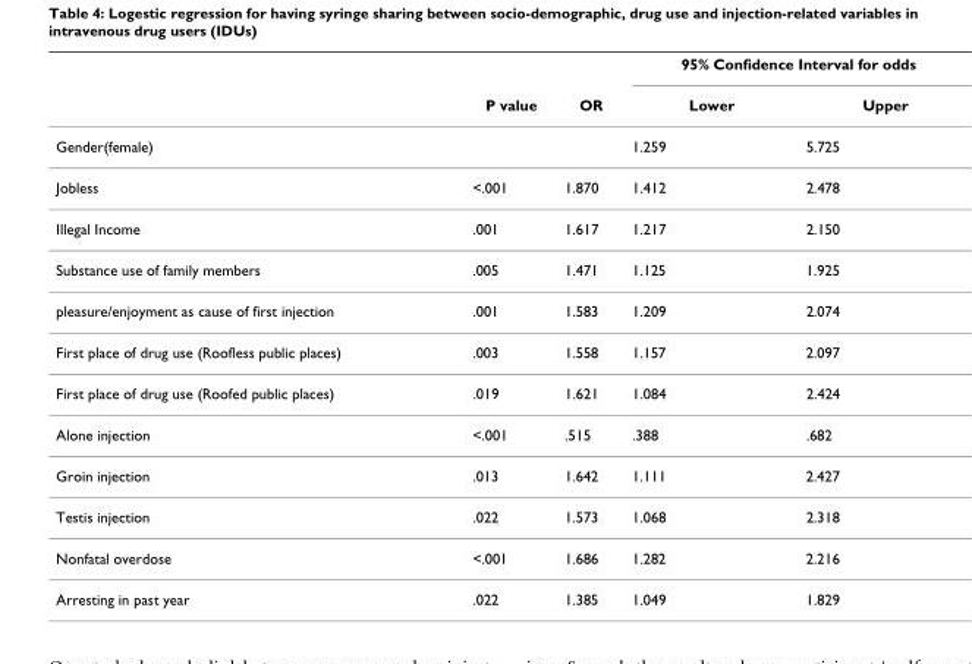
<table><thead><tr><td rowspan="2"></td><td rowspan="2">P value</td><td rowspan="2">OR</td><td colspan="2">95% Confidence Interval for odds</td></tr><tr><td>Lower</td><td>Upper</td></tr></thead><tbody><tr><td>Gender(female)</td><td></td><td></td><td>1.259</td><td>5.725</td></tr><tr><td>Jobless</td><td>&lt;.001</td><td>1.870</td><td>1.412</td><td>2.478</td></tr><tr><td>Illegal Income</td><td>.001</td><td>1.617</td><td>1.217</td><td>2.150</td></tr><tr><td>Substance use of family members</td><td>.005</td><td>1.471</td><td>1.125</td><td>1.925</td></tr><tr><td>pleasure/enjoyment as cause of first injection</td><td>.001</td><td>1.583</td><td>1.209</td><td>2.074</td></tr><tr><td>First place of drug use (Roofless public places)</td><td>.003</td><td>1.558</td><td>1.157</td><td>2.097</td></tr><tr><td>First place of drug use (Roofed public places)</td><td>.019</td><td>1.621</td><td>1.084</td><td>2.424</td></tr><tr><td>Alone injection</td><td>&lt;.001</td><td>.515</td><td>.388</td><td>.682</td></tr><tr><td>Groin injection</td><td>.013</td><td>1.642</td><td>1.111</td><td>2.427</td></tr><tr><td>Testis injection</td><td>.022</td><td>1.573</td><td>1.068</td><td>2.318</td></tr><tr><td>Nonfatal overdose</td><td>&lt;.001</td><td>1.686</td><td>1.282</td><td>2.216</td></tr><tr><td>Arresting in past year</td><td>.022</td><td>1.385</td><td>1.049</td><td>1.829</td></tr></tbody></table>